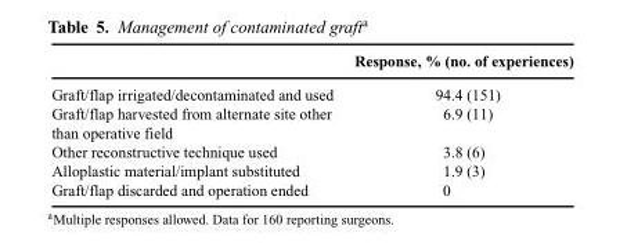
<table><thead><tr><td></td><td>Response, % (no. of experiences)</td></tr></thead><tbody><tr><td>Graft/flap irrigated/decontaminated and used</td><td>94.4 (151)</td></tr><tr><td>Graft/flap harvested from alternate site other than operative field</td><td>6.9 (11)</td></tr><tr><td>Other reconstructive technique used</td><td>3.8 (6)</td></tr><tr><td>Alloplastic material/implant substituted</td><td>1.9 (3)</td></tr><tr><td>Graft/flap discarded and operation ended</td><td>0</td></tr></tbody></table>